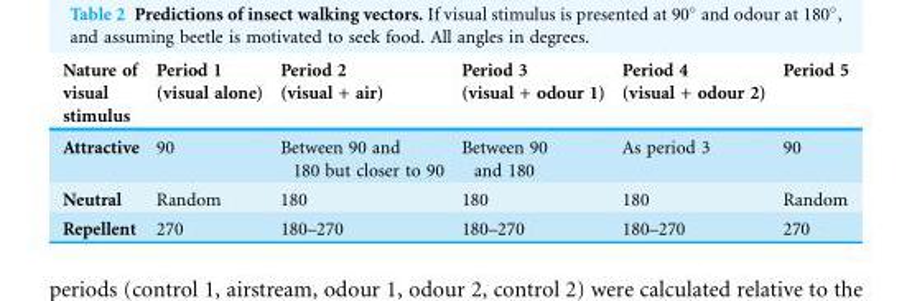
<table><thead><tr><td>Nature of visual stimulus</td><td>Period 1 (visual alone)</td><td>Period 2 (visual + air)</td><td>Period 3 (visual + odour 1)</td><td>Period 4 (visual + odour 2)</td><td>Period 5</td></tr></thead><tbody><tr><td>Attractive</td><td>90</td><td>Between 90 and 180 but closer to 90</td><td>Between 90 and 180</td><td>As period 3</td><td>90</td></tr><tr><td>Neutral</td><td>Random</td><td>180</td><td>180</td><td>180</td><td>Random</td></tr><tr><td>Repellent</td><td>270</td><td>180–270</td><td>180–270</td><td>180–270</td><td>270</td></tr></tbody></table>